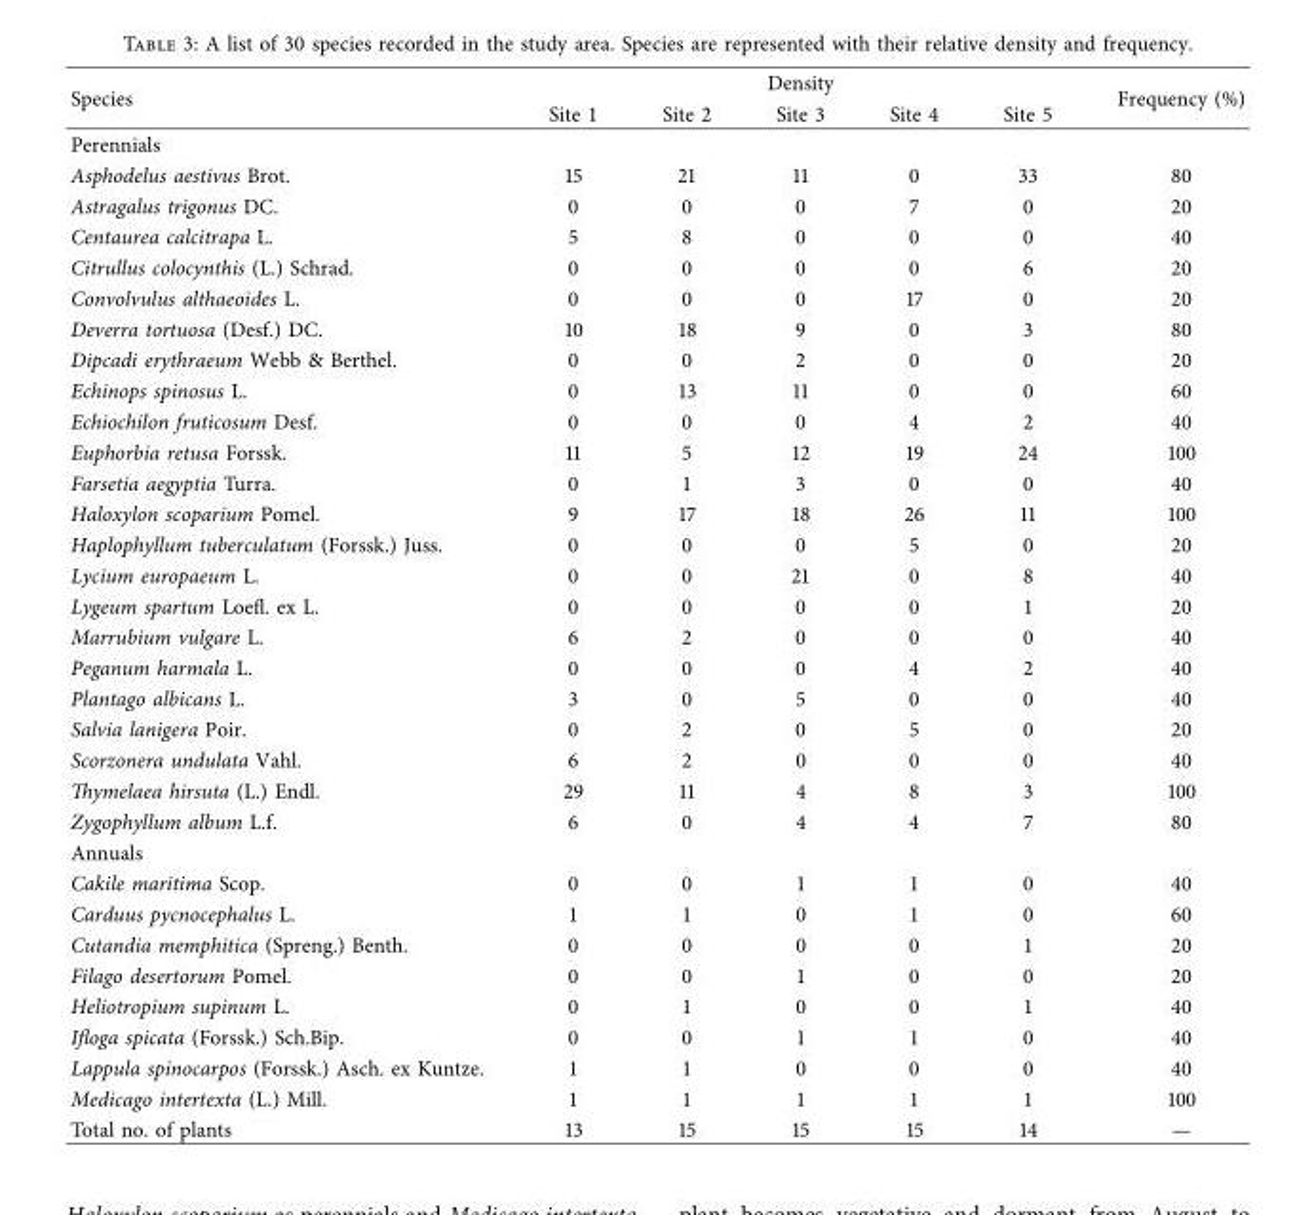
<table><thead><tr><td rowspan="2">Species</td><td colspan="5">Density</td><td rowspan="2">Frequency (%)</td></tr><tr><td>Site 1</td><td>Site 2</td><td>Site 3</td><td>Site 4</td><td>Site 5</td></tr></thead><tbody><tr><td colspan="7">Perennials</td></tr><tr><td>Asphodelus aestivus Brot.</td><td>15</td><td>21</td><td>11</td><td>0</td><td>33</td><td>80</td></tr><tr><td>Astragalus trigonus DC.</td><td>0</td><td>0</td><td>0</td><td>7</td><td>0</td><td>20</td></tr><tr><td>Centaurea calcitrapa L.</td><td>5</td><td>8</td><td>0</td><td>0</td><td>0</td><td>40</td></tr><tr><td>Citrullus colocynthis (L.) Schrad.</td><td>0</td><td>0</td><td>0</td><td>0</td><td>6</td><td>20</td></tr><tr><td>Convolvulus althaeoides L.</td><td>0</td><td>0</td><td>0</td><td>17</td><td>0</td><td>20</td></tr><tr><td>Deverra tortuosa (Desf.) DC.</td><td>10</td><td>18</td><td>9</td><td>0</td><td>3</td><td>80</td></tr><tr><td>Dipcadi erythraeum Webb &amp; Berthel.</td><td>0</td><td>0</td><td>2</td><td>0</td><td>0</td><td>20</td></tr><tr><td>Echinops spinosus L.</td><td>0</td><td>13</td><td>11</td><td>0</td><td>0</td><td>60</td></tr><tr><td>Echiochilon fruticosum Desf.</td><td>0</td><td>0</td><td>0</td><td>4</td><td>2</td><td>40</td></tr><tr><td>Euphorbia retusa Forssk.</td><td>11</td><td>5</td><td>12</td><td>19</td><td>24</td><td>100</td></tr><tr><td>Farsetia aegyptia Turra.</td><td>0</td><td>1</td><td>3</td><td>0</td><td>0</td><td>40</td></tr><tr><td>Haloxylon scoparium Pomel.</td><td>9</td><td>17</td><td>18</td><td>26</td><td>11</td><td>100</td></tr><tr><td>Haplophyllum tuberculatum (Forssk.) Juss.</td><td>0</td><td>0</td><td>0</td><td>5</td><td>0</td><td>20</td></tr><tr><td>Lycium europaeum L.</td><td>0</td><td>0</td><td>21</td><td>0</td><td>8</td><td>40</td></tr><tr><td>Lygeum spartum Loef. ex L.</td><td>0</td><td>0</td><td>0</td><td>0</td><td>1</td><td>20</td></tr><tr><td>Marrubium vulgare L.</td><td>6</td><td>2</td><td>0</td><td>0</td><td>0</td><td>40</td></tr><tr><td>Peganum harmala L.</td><td>0</td><td>0</td><td>0</td><td>4</td><td>2</td><td>40</td></tr><tr><td>Plantago albicans L.</td><td>3</td><td>0</td><td>5</td><td>0</td><td>0</td><td>40</td></tr><tr><td>Salvia lanigera Poir.</td><td>0</td><td>2</td><td>0</td><td>5</td><td>0</td><td>20</td></tr><tr><td>Scorzonera undulata Vahl.</td><td>6</td><td>2</td><td>0</td><td>0</td><td>0</td><td>40</td></tr><tr><td>Tymelaea hirsuta (L.) Endl.</td><td>29</td><td>11</td><td>4</td><td>8</td><td>3</td><td>100</td></tr><tr><td>Zygophyllum album L.f.</td><td>6</td><td>0</td><td>4</td><td>4</td><td>7</td><td>80</td></tr><tr><td colspan="7">Annuals</td></tr><tr><td>Cakile maritima Scop.</td><td>0</td><td>0</td><td>1</td><td>1</td><td>0</td><td>40</td></tr><tr><td>Carduus pycnocephalus L.</td><td>1</td><td>1</td><td>0</td><td>1</td><td>0</td><td>60</td></tr><tr><td>Cutandia memphitica (Spreng.) Benth.</td><td>0</td><td>0</td><td>0</td><td>0</td><td>1</td><td>20</td></tr><tr><td>Filago desertorum Pomel.</td><td>0</td><td>0</td><td>1</td><td>0</td><td>0</td><td>20</td></tr><tr><td>Heliotropium supinum L.</td><td>0</td><td>1</td><td>0</td><td>0</td><td>1</td><td>40</td></tr><tr><td>Ifoga spicata (Forssk.) Sch.Bip.</td><td>0</td><td>0</td><td>1</td><td>1</td><td>0</td><td>40</td></tr><tr><td>Lappula spinocarpos (Forssk.) Asch. ex Kuntze.</td><td>1</td><td>1</td><td>0</td><td>0</td><td>0</td><td>40</td></tr><tr><td>Medicago intertexta (L.) Mill.</td><td>1</td><td>1</td><td>1</td><td>1</td><td>1</td><td>100</td></tr><tr><td>Total no. of plants</td><td>13</td><td>15</td><td>15</td><td>15</td><td>14</td><td>—</td></tr></tbody></table>